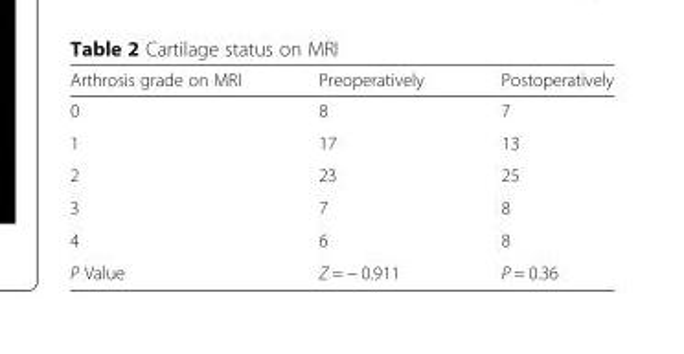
<table><thead><tr><td>Arthrosis grade on MRI</td><td>Preoperatively</td><td>Postoperatively</td></tr></thead><tbody><tr><td>0</td><td>8</td><td>7</td></tr><tr><td>1</td><td>17</td><td>13</td></tr><tr><td>2</td><td>23</td><td>25</td></tr><tr><td>3</td><td>7</td><td>8</td></tr><tr><td>4</td><td>6</td><td>8</td></tr><tr><td>P Value</td><td>Z = − 0.911</td><td>P = 0.36</td></tr></tbody></table>